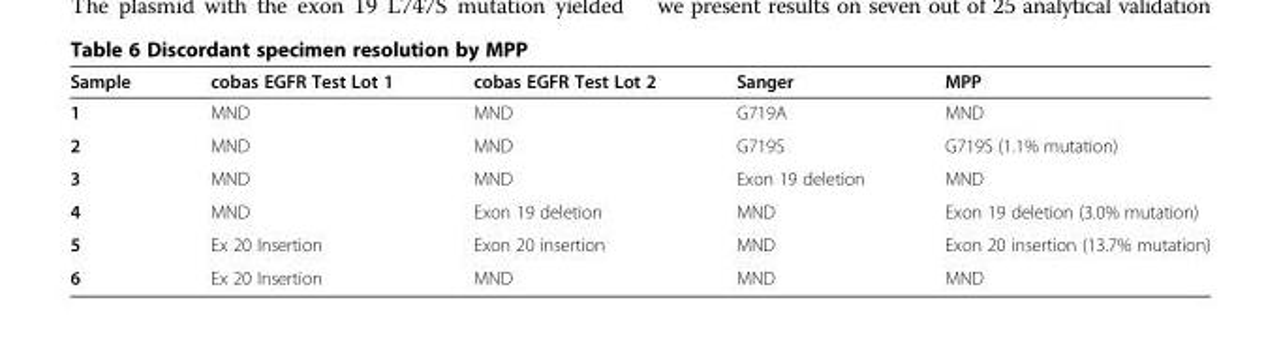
<table><thead><tr><td>Sample</td><td>cobas EGFR Test Lot 1</td><td>cobas EGFR Test Lot 2</td><td>Sanger</td><td>MPP</td></tr></thead><tbody><tr><td>1</td><td>MND</td><td>MND</td><td>G719A</td><td>MND</td></tr><tr><td>2</td><td>MND</td><td>MND</td><td>G719S</td><td>G719S (1.1% mutation)</td></tr><tr><td>3</td><td>MND</td><td>MND</td><td>Exon 19 deletion</td><td>MND</td></tr><tr><td>4</td><td>MND</td><td>Exon 19 deletion</td><td>MND</td><td>Exon 19 deletion (3.0% mutation)</td></tr><tr><td>5</td><td>Ex 20 Insertion</td><td>Exon 20 insertion</td><td>MND</td><td>Exon 20 insertion (13.7% mutation)</td></tr><tr><td>6</td><td>Ex 20 Insertion</td><td>MND</td><td>MND</td><td>MND</td></tr></tbody></table>